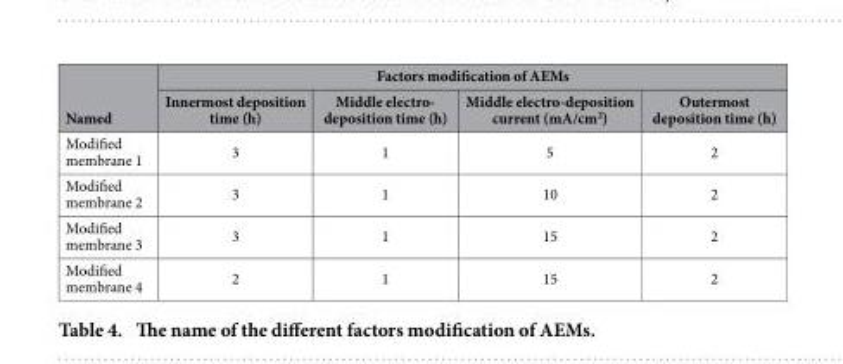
<table><thead><tr><td rowspan="2">Named</td><td colspan="4">Factors modification of AEMs</td></tr><tr><td>Innermost deposition time (h)</td><td>Middle electro- deposition time (h)</td><td>Middle electro-deposition current (mA/cm<sup>2</sup>)</td><td>Outermost deposition time (h)</td></tr></thead><tbody><tr><td>Modified membrane 1</td><td>3</td><td>1</td><td>5</td><td>2</td></tr><tr><td>Modified membrane 2</td><td>3</td><td>1</td><td>10</td><td>2</td></tr><tr><td>Modified membrane 3</td><td>3</td><td>1</td><td>15</td><td>2</td></tr><tr><td>Modified membrane 4</td><td>2</td><td>1</td><td>15</td><td>2</td></tr></tbody></table>